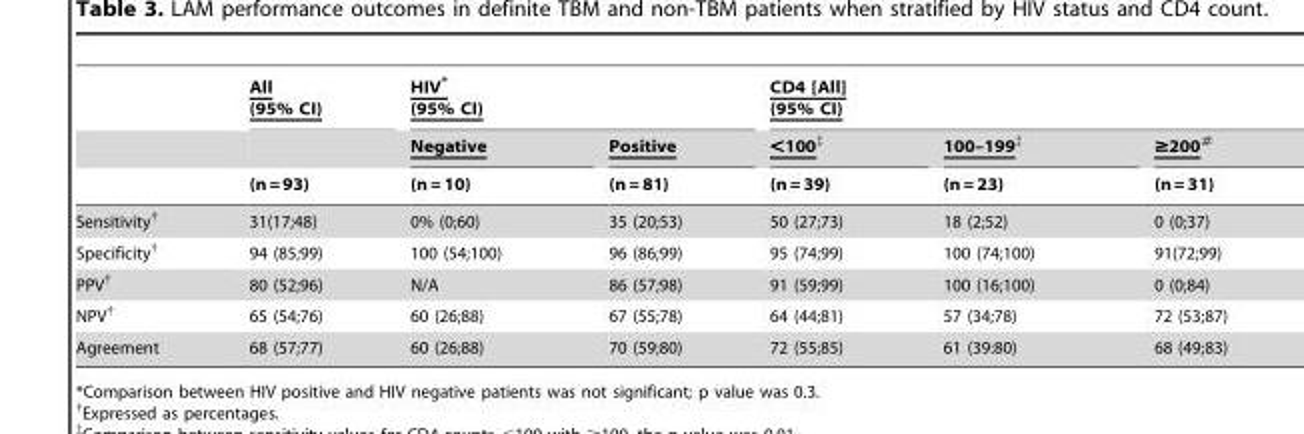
<table><thead><tr><td rowspan="3"></td><td rowspan="3">All (95% CI) (n = 93)</td><td colspan="2">HIV* (95% CI)</td><td colspan="3">CD4 [All] (95% CI)</td></tr><tr><td rowspan="2">Negative (n = 10)</td><td rowspan="2">Positive (n = 81)</td><td rowspan="2">&lt;100‡ (n = 39)</td><td rowspan="2">100–199‡ (n = 23)</td><td rowspan="2">≥200# (n = 31)</td></tr><tr></tr></thead><tbody><tr><td>Sensitivity†</td><td>31(17;48)</td><td>0% (0;60)</td><td>35 (20;53)</td><td>50 (27;73)</td><td>18 (2;52)</td><td>0 (0;37)</td></tr><tr><td>Specificity†</td><td>94 (85;99)</td><td>100 (54;100)</td><td>96 (86;99)</td><td>95 (74;99)</td><td>100 (74;100)</td><td>91(72;99)</td></tr><tr><td>PPV†</td><td>80 (52;96)</td><td>N/A</td><td>86 (57;98)</td><td>91 (59;99)</td><td>100 (16;100)</td><td>0 (0;84)</td></tr><tr><td>NPV†</td><td>65 (54;76)</td><td>60 (26;88)</td><td>67 (55;78)</td><td>64 (44;81)</td><td>57 (34;78)</td><td>72 (53;87)</td></tr><tr><td>Agreement</td><td>68 (57;77)</td><td>60 (26;88)</td><td>70 (59;80)</td><td>72 (55;85)</td><td>61 (39:80)</td><td>68 (49;83)</td></tr></tbody></table>